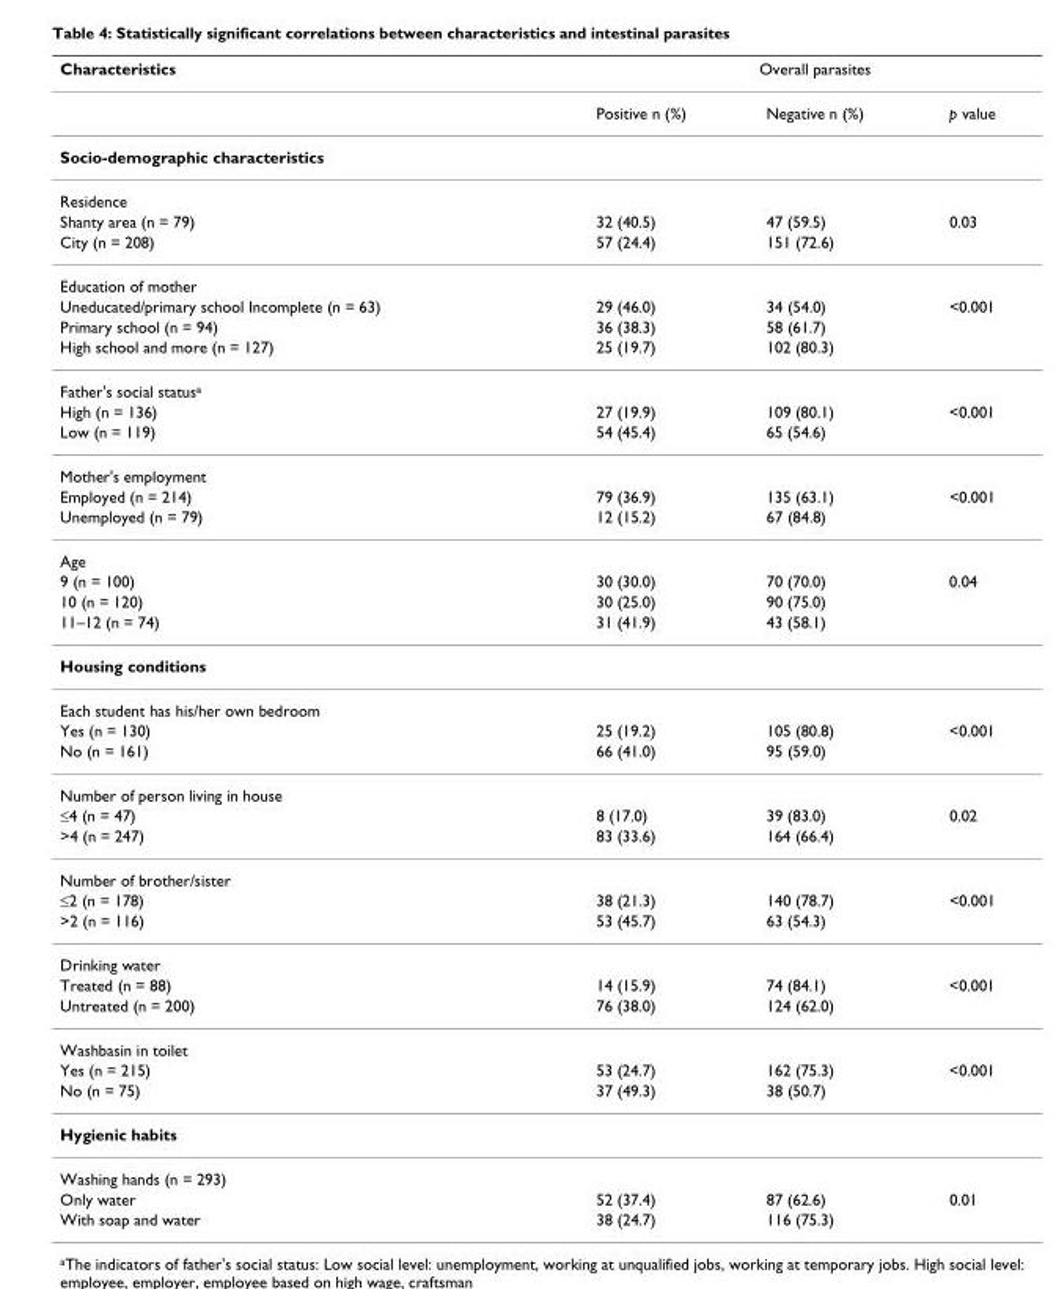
<table><thead><tr><td rowspan="2">Characteristics</td><td colspan="3">Overall parasites</td></tr><tr><td>Positive n (%)</td><td>Negative n (%)</td><td>p value</td></tr></thead><tbody><tr><td colspan="4">Socio-demographic characteristics</td></tr><tr><td colspan="4">Residence</td></tr><tr><td>Shanty area (n = 79)</td><td>32 (40.5)</td><td>47 (59.5)</td><td>0.03</td></tr><tr><td>City (n = 208)</td><td>57 (24.4)</td><td>151 (72.6)</td><td></td></tr><tr><td colspan="4">Education of mother</td></tr><tr><td>Uneducated/primary school Incomplete (n = 63)</td><td>29 (46.0)</td><td>34 (54.0)</td><td>&lt;0.001</td></tr><tr><td>Primary school (n = 94)</td><td>36 (38.3)</td><td>58 (61.7)</td><td></td></tr><tr><td>High school and more (n = 127)</td><td>25 (19.7)</td><td>102 (80.3)</td><td></td></tr><tr><td colspan="4">Father&#x27;s social status<sup>a</sup></td></tr><tr><td>High (n = 136)</td><td>27 (19.9)</td><td>109 (80.1)</td><td>&lt;0.001</td></tr><tr><td>Low (n = 119)</td><td>54 (45.4)</td><td>65 (54.6)</td><td></td></tr><tr><td colspan="4">Mother&#x27;s employment</td></tr><tr><td>Employed (n = 214)</td><td>79 (36.9)</td><td>135 (63.1)</td><td>&lt;0.001</td></tr><tr><td>Unemployed (n = 79)</td><td>12 (15.2)</td><td>67 (84.8)</td><td></td></tr><tr><td colspan="4">Age</td></tr><tr><td>9 (n = 100)</td><td>30 (30.0)</td><td>70 (70.0)</td><td>0.04</td></tr><tr><td>10 (n = 120)</td><td>30 (25.0)</td><td>90 (75.0)</td><td></td></tr><tr><td>11–12 (n = 74)</td><td>31 (41.9)</td><td>43 (58.1)</td><td></td></tr><tr><td colspan="4">Housing conditions</td></tr><tr><td colspan="4">Each student has his/her own bedroom</td></tr><tr><td>Yes (n = 130)</td><td>25 (19.2)</td><td>105 (80.8)</td><td>&lt;0.001</td></tr><tr><td>No (n = 161)</td><td>66 (41.0)</td><td>95 (59.0)</td><td></td></tr><tr><td colspan="4">Number of person living in house</td></tr><tr><td>≤4 (n = 47)</td><td>8 (17.0)</td><td>39 (83.0)</td><td>0.02</td></tr><tr><td>&gt;4 (n = 247)</td><td>83 (33.6)</td><td>164 (66.4)</td><td></td></tr><tr><td colspan="4">Number of brother/sister</td></tr><tr><td>≤2 (n = 178)</td><td>38 (21.3)</td><td>140 (78.7)</td><td>&lt;0.001</td></tr><tr><td>&gt;2 (n = 116)</td><td>53 (45.7)</td><td>63 (54.3)</td><td></td></tr><tr><td colspan="4">Drinking water</td></tr><tr><td>Treated (n = 88)</td><td>14 (15.9)</td><td>74 (84.1)</td><td>&lt;0.001</td></tr><tr><td>Untreated (n = 200)</td><td>76 (38.0)</td><td>124 (62.0)</td><td></td></tr><tr><td colspan="4">Washbasin in toilet</td></tr><tr><td>Yes (n = 215)</td><td>53 (24.7)</td><td>162 (75.3)</td><td>&lt;0.001</td></tr><tr><td>No (n = 75)</td><td>37 (49.3)</td><td>38 (50.7)</td><td></td></tr><tr><td colspan="4">Hygienic habits</td></tr><tr><td colspan="4">Washing hands (n = 293)</td></tr><tr><td>Only water</td><td>52 (37.4)</td><td>87 (62.6)</td><td>0.01</td></tr><tr><td>With soap and water</td><td>38 (24.7)</td><td>116 (75.3)</td><td></td></tr></tbody></table>